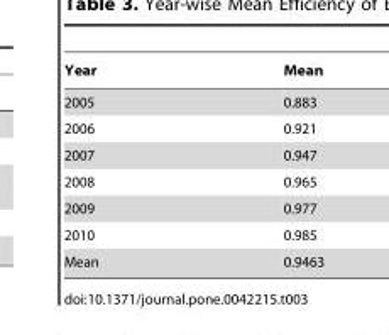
<table><thead><tr><td>Year</td><td>Mean</td></tr></thead><tbody><tr><td>2005</td><td>0.883</td></tr><tr><td>2006</td><td>0.921</td></tr><tr><td>2007</td><td>0.947</td></tr><tr><td>2008</td><td>0.965</td></tr><tr><td>2009</td><td>0.977</td></tr><tr><td>2010</td><td>0.985</td></tr><tr><td>Mean</td><td>0.9463</td></tr></tbody></table>